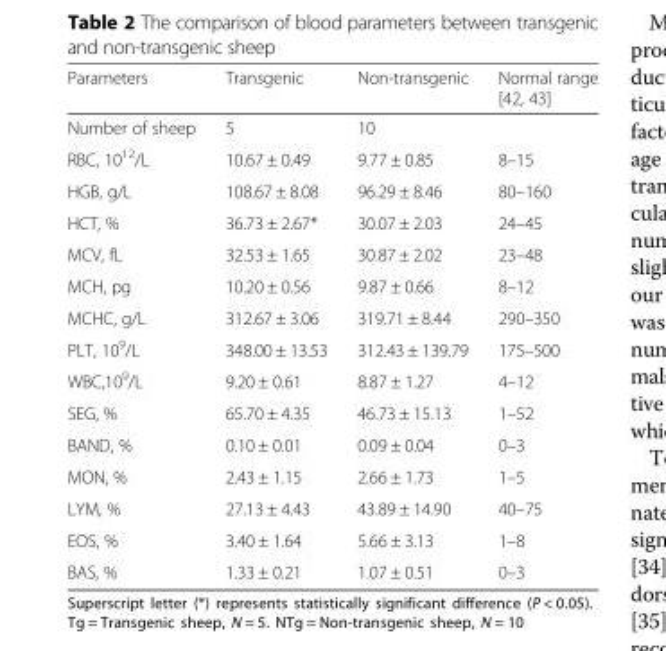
<table><thead><tr><td>Parameters</td><td>Transgenic</td><td>Non-transgenic</td><td>Normal range [42, 43]</td></tr></thead><tbody><tr><td>Number of sheep</td><td>5</td><td>10</td><td></td></tr><tr><td>RBC, 10<sup>12</sup>/L</td><td>10.67 ± 0.49</td><td>9.77 ± 0.85</td><td>8–15</td></tr><tr><td>HGB, g/L</td><td>108.67 ± 8.08</td><td>96.29 ± 8.46</td><td>80–160</td></tr><tr><td>HCT, %</td><td>36.73 ± 2.67*</td><td>30.07 ± 2.03</td><td>24–45</td></tr><tr><td>MCV, fL</td><td>32.53 ± 1.65</td><td>30.87 ± 2.02</td><td>23–48</td></tr><tr><td>MCH, pg</td><td>10.20 ± 0.56</td><td>9.87 ± 0.66</td><td>8–12</td></tr><tr><td>MCHC, g/L</td><td>312.67 ± 3.06</td><td>319.71 ± 8.44</td><td>290–350</td></tr><tr><td>PLT, 10<sup>9</sup>/L</td><td>348.00 ± 13.53</td><td>312.43 ± 139.79</td><td>175–500</td></tr><tr><td>WBC,10<sup>9</sup>/L</td><td>9.20 ± 0.61</td><td>8.87 ± 1.27</td><td>4–12</td></tr><tr><td>SEG, %</td><td>65.70 ± 4.35</td><td>46.73 ± 15.13</td><td>1–52</td></tr><tr><td>BAND, %</td><td>0.10 ± 0.01</td><td>0.09 ± 0.04</td><td>0–3</td></tr><tr><td>MON, %</td><td>2.43 ± 1.15</td><td>2.66 ± 1.73</td><td>1–5</td></tr><tr><td>LYM, %</td><td>27.13 ± 4.43</td><td>43.89 ± 14.90</td><td>40–75</td></tr><tr><td>EOS, %</td><td>3.40 ± 1.64</td><td>5.66 ± 3.13</td><td>1–8</td></tr><tr><td>BAS, %</td><td>1.33 ± 0.21</td><td>1.07 ± 0.51</td><td>0–3</td></tr></tbody></table>